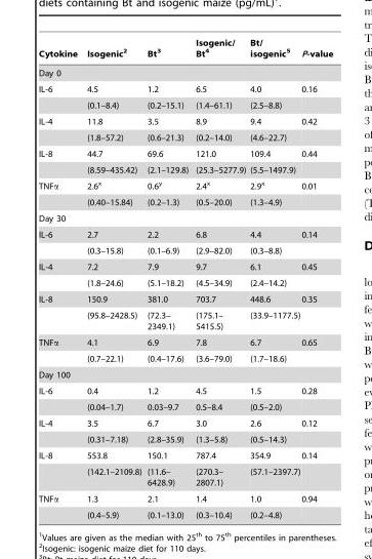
<table><thead><tr><td>Cytokine</td><td>Isogenic<sup>2</sup></td><td>Bt<sup>3</sup></td><td>Isogenic/ Bt<sup>4</sup></td><td>Bt/ isogenic<sup>5</sup></td><td>P-value</td></tr></thead><tbody><tr><td colspan="6">Day 0</td></tr><tr><td rowspan="2">IL-6</td><td>4.5</td><td>1.2</td><td>6.5</td><td>4.0</td><td>0.16</td></tr><tr><td>(0.1–8.4)</td><td>(0.2–15.1)</td><td>(1.4–61.1)</td><td>(2.5–8.8)</td><td></td></tr><tr><td rowspan="2">IL-4</td><td>11.8</td><td>3.5</td><td>8.9</td><td>9.4</td><td>0.42</td></tr><tr><td>(1.8–57.2)</td><td>(0.6–21.3)</td><td>(0.2–14.0)</td><td>(4.6–22.7)</td><td></td></tr><tr><td rowspan="2">IL-8</td><td>44.7</td><td>69.6</td><td>121.0</td><td>109.4</td><td>0.44</td></tr><tr><td>(8.59–435.42)</td><td>(2.1–129.8)</td><td>(25.3–5277.9)</td><td>(5.5–1497.9)</td><td></td></tr><tr><td rowspan="2">TNFα</td><td>2.6<sup>x</sup></td><td>0.6<sup>y</sup></td><td>2.4<sup>x</sup></td><td>2.9<sup>x</sup></td><td>0.01</td></tr><tr><td>(0.40–15.84)</td><td>(0.2–1.3)</td><td>(0.5–20.0)</td><td>(1.3–4.9)</td><td></td></tr><tr><td colspan="6">Day 30</td></tr><tr><td rowspan="2">IL-6</td><td>2.7</td><td>2.2</td><td>6.8</td><td>4.4</td><td>0.14</td></tr><tr><td>(0.3–15.8)</td><td>(0.1–6.9)</td><td>(2.9–82.0)</td><td>(0.3–8.8)</td><td></td></tr><tr><td rowspan="2">IL-4</td><td>7.2</td><td>7.9</td><td>9.7</td><td>6.1</td><td>0.45</td></tr><tr><td>(1.8–24.6)</td><td>(5.1–18.2)</td><td>(4.5–34.9)</td><td>(2.4–14.2)</td><td></td></tr><tr><td rowspan="2">IL-8</td><td>150.9</td><td>381.0</td><td>703.7</td><td>448.6</td><td>0.35</td></tr><tr><td>(95.8–2428.5)</td><td>(72.3– 2349.1)</td><td>(175.1– 5415.5)</td><td>(33.9–1177.5)</td><td></td></tr><tr><td rowspan="2">TNFα</td><td>4.1</td><td>6.9</td><td>7.8</td><td>6.7</td><td>0.65</td></tr><tr><td>(0.7–22.1)</td><td>(0.4–17.6)</td><td>(3.6–79.0)</td><td>(1.7–18.6)</td><td></td></tr><tr><td colspan="6">Day 100</td></tr><tr><td rowspan="2">IL-6</td><td>0.4</td><td>1.2</td><td>4.5</td><td>1.5</td><td>0.28</td></tr><tr><td>(0.04–1.7)</td><td>0.03–9.7</td><td>0.5–8.4</td><td>(0.5–2.0)</td><td></td></tr><tr><td rowspan="2">IL-4</td><td>3.5</td><td>6.7</td><td>3.0</td><td>2.6</td><td>0.12</td></tr><tr><td>(0.31–7.18)</td><td>(2.8–35.9)</td><td>(1.3–5.8)</td><td>(0.5–14.3)</td><td></td></tr><tr><td rowspan="2">IL-8</td><td>553.8</td><td>150.1</td><td>787.4</td><td>354.9</td><td>0.14</td></tr><tr><td>(142.1–2109.8)</td><td>(11.6– 6428.9)</td><td>(270.3– 2807.1)</td><td>(57.1–2397.7)</td><td></td></tr><tr><td rowspan="2">TNFα</td><td>1.3</td><td>2.1</td><td>1.4</td><td>1.0</td><td>0.94</td></tr><tr><td>(0.4–5.9)</td><td>(0.1–13.0)</td><td>(0.3–10.4)</td><td>(0.2–4.8)</td><td></td></tr></tbody></table>